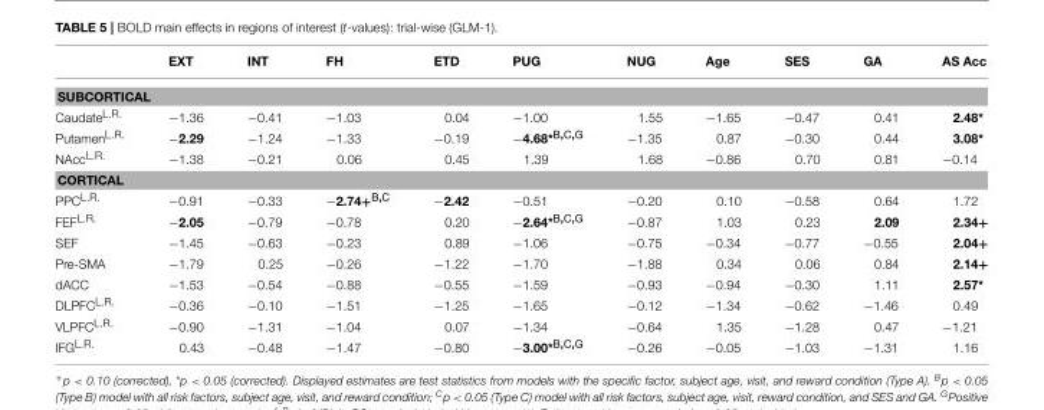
<table><thead><tr><td></td><td>EXT</td><td>INT</td><td>FH</td><td>ETD</td><td>PUG</td><td>NUG</td><td>Age</td><td>SES</td><td>GA</td><td>AS Acc</td></tr></thead><tbody><tr><td colspan="11">SUBCORTICAL</td></tr><tr><td>Caudate<sup>L.R.</sup></td><td>−1.36</td><td>−0.41</td><td>−1.03</td><td>0.04</td><td>−1.00</td><td>1.55</td><td>−1.65</td><td>−0.47</td><td>0.41</td><td>2.48*</td></tr><tr><td>Putamen<sup>L.R.</sup></td><td>−2.29</td><td>−1.24</td><td>−1.33</td><td>−0.19</td><td>−4.68<sup>*B,C,G</sup></td><td>−1.35</td><td>0.87</td><td>−0.30</td><td>0.44</td><td>3.08*</td></tr><tr><td>NAcc<sup>L.R.</sup></td><td>−1.38</td><td>−0.21</td><td>0.06</td><td>0.45</td><td>1.39</td><td>1.68</td><td>−0.86</td><td>0.70</td><td>0.81</td><td>−0.14</td></tr><tr><td colspan="11">CORTICAL</td></tr><tr><td>PPC<sup>L.R.</sup></td><td>−0.91</td><td>−0.33</td><td>−2.74<sup>+B,C</sup></td><td>−2.42</td><td>−0.51</td><td>−0.20</td><td>0.10</td><td>−0.58</td><td>0.64</td><td>1.72</td></tr><tr><td>FEF<sup>L.R.</sup></td><td>−2.05</td><td>−0.79</td><td>−0.78</td><td>0.20</td><td>−2.64<sup>*B,C,G</sup></td><td>−0.87</td><td>1.03</td><td>0.23</td><td>2.09</td><td>2.34<sup>+</sup></td></tr><tr><td>SEF</td><td>−1.45</td><td>−0.63</td><td>−0.23</td><td>0.89</td><td>−1.06</td><td>−0.75</td><td>−0.34</td><td>−0.77</td><td>−0.55</td><td>2.04<sup>+</sup></td></tr><tr><td>Pre-SMA</td><td>−1.79</td><td>0.25</td><td>−0.26</td><td>−1.22</td><td>−1.70</td><td>−1.88</td><td>0.34</td><td>0.06</td><td>0.84</td><td>2.14<sup>+</sup></td></tr><tr><td>dACC</td><td>−1.53</td><td>−0.54</td><td>−0.88</td><td>−0.55</td><td>−1.59</td><td>−0.93</td><td>−0.94</td><td>−0.30</td><td>1.11</td><td>2.57*</td></tr><tr><td>DLPFC<sup>L.R.</sup></td><td>−0.36</td><td>−0.10</td><td>−1.51</td><td>−1.25</td><td>−1.65</td><td>−0.12</td><td>−1.34</td><td>−0.62</td><td>−1.46</td><td>0.49</td></tr><tr><td>VLPFC<sup>L.R.</sup></td><td>−0.90</td><td>−1.31</td><td>−1.04</td><td>0.07</td><td>−1.34</td><td>−0.64</td><td>1.35</td><td>−1.28</td><td>0.47</td><td>−1.21</td></tr><tr><td>IFG<sup>L.R.</sup></td><td>0.43</td><td>−0.48</td><td>−1.47</td><td>−0.80</td><td>−3.00<sup>*B,C,G</sup></td><td>−0.26</td><td>−0.05</td><td>−1.03</td><td>−1.31</td><td>1.16</td></tr></tbody></table>